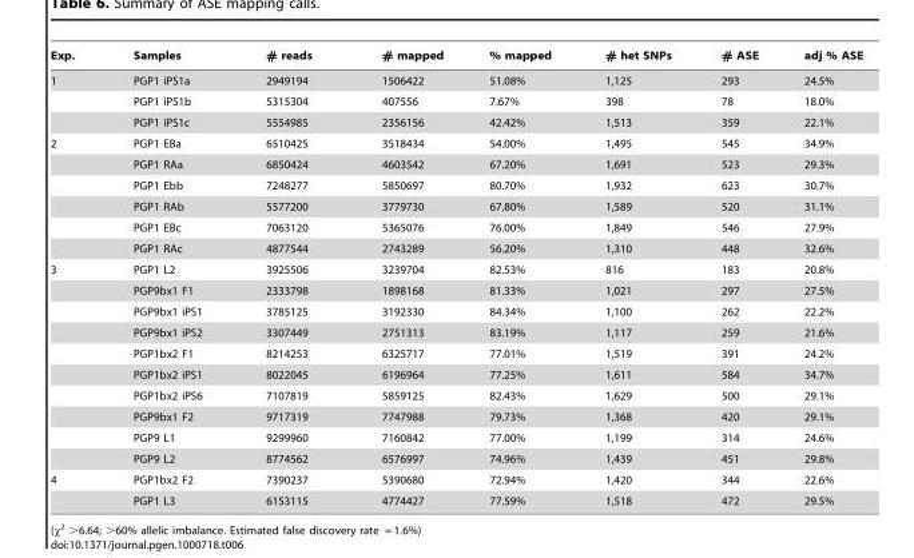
<table><thead><tr><td>Exp.</td><td>Samples</td><td># reads</td><td># mapped</td><td>% mapped</td><td># het SNPs</td><td># ASE</td><td>adj % ASE</td></tr></thead><tbody><tr><td rowspan="3">1</td><td>PGP1 iPS1a</td><td>2949194</td><td>1506422</td><td>51.08%</td><td>1,125</td><td>293</td><td>24.5%</td></tr><tr><td>PGP1 iPS1b</td><td>5315304</td><td>407556</td><td>7.67%</td><td>398</td><td>78</td><td>18.0%</td></tr><tr><td>PGP1 iPS1c</td><td>5554985</td><td>2356156</td><td>42.42%</td><td>1,513</td><td>359</td><td>22.1%</td></tr><tr><td rowspan="6">2</td><td>PGP1 EBa</td><td>6510425</td><td>3518434</td><td>54.00%</td><td>1,495</td><td>545</td><td>34.9%</td></tr><tr><td>PGP1 RAa</td><td>6850424</td><td>4603542</td><td>67.20%</td><td>1,691</td><td>523</td><td>29.3%</td></tr><tr><td>PGP1 Ebb</td><td>7248277</td><td>5850697</td><td>80.70%</td><td>1,932</td><td>623</td><td>30.7%</td></tr><tr><td>PGP1 RAb</td><td>5577200</td><td>3779730</td><td>67.80%</td><td>1,589</td><td>520</td><td>31.1%</td></tr><tr><td>PGP1 EBc</td><td>7063120</td><td>5365076</td><td>76.00%</td><td>1,849</td><td>546</td><td>27.9%</td></tr><tr><td>PGP1 RAc</td><td>4877544</td><td>2743289</td><td>56.20%</td><td>1,310</td><td>448</td><td>32.6%</td></tr><tr><td rowspan="10">3</td><td>PGP1 L2</td><td>3925506</td><td>3239704</td><td>82.53%</td><td>816</td><td>183</td><td>20.8%</td></tr><tr><td>PGP9bx1 F1</td><td>2333798</td><td>1898168</td><td>81.33%</td><td>1,021</td><td>297</td><td>27.5%</td></tr><tr><td>PGP9bx1 iPS1</td><td>3785125</td><td>3192330</td><td>84.34%</td><td>1,100</td><td>262</td><td>22.2%</td></tr><tr><td>PGP9bx1 iPS2</td><td>3307449</td><td>2751313</td><td>83.19%</td><td>1,117</td><td>259</td><td>21.6%</td></tr><tr><td>PGP1bx2 F1</td><td>8214253</td><td>6325717</td><td>77.01%</td><td>1,519</td><td>391</td><td>24.2%</td></tr><tr><td>PGP1bx2 iPS1</td><td>8022045</td><td>6196964</td><td>77.25%</td><td>1,611</td><td>584</td><td>34.7%</td></tr><tr><td>PGP1bx2 iPS6</td><td>7107819</td><td>5859125</td><td>82.43%</td><td>1,629</td><td>500</td><td>29.1%</td></tr><tr><td>PGP9bx1 F2</td><td>9717319</td><td>7747988</td><td>79.73%</td><td>1,368</td><td>420</td><td>29.1%</td></tr><tr><td>PGP9 L1</td><td>9299960</td><td>7160842</td><td>77.00%</td><td>1,199</td><td>314</td><td>24.6%</td></tr><tr><td>PGP9 L2</td><td>8774562</td><td>6576997</td><td>74.96%</td><td>1,439</td><td>451</td><td>29.8%</td></tr><tr><td rowspan="2">4</td><td>PGP1bx2 F2</td><td>7390237</td><td>5390680</td><td>72.94%</td><td>1,420</td><td>344</td><td>22.6%</td></tr><tr><td>PGP1 L3</td><td>6153115</td><td>4774427</td><td>77.59%</td><td>1,518</td><td>472</td><td>29.5%</td></tr></tbody></table>